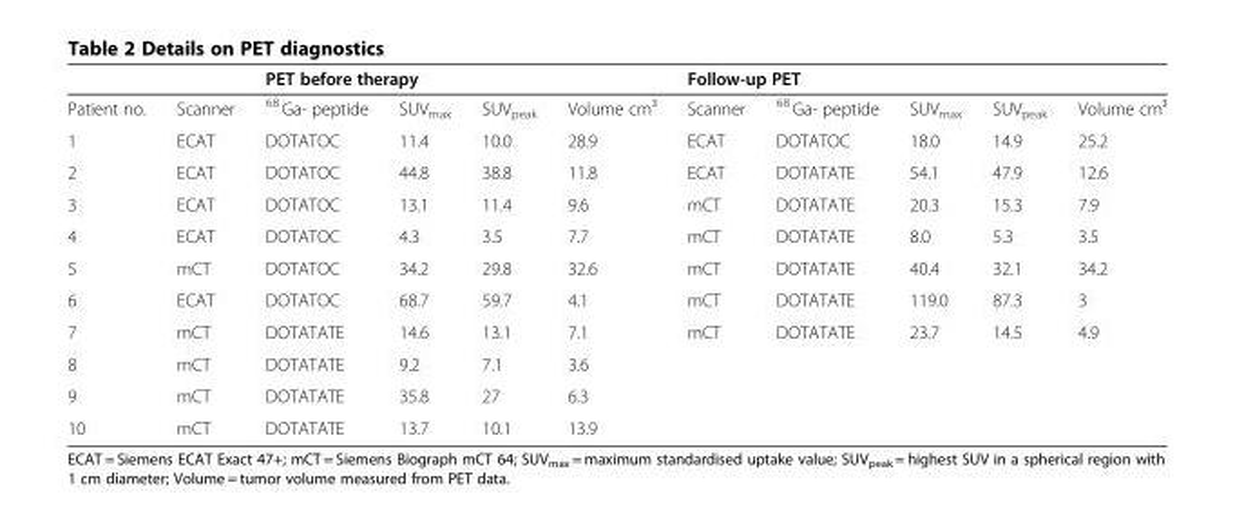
<table><thead><tr><td rowspan="2">Patient no.</td><td rowspan="2">Scanner</td><td colspan="4">PET before therapy</td><td colspan="5">Follow-up PET</td></tr><tr><td><sup>68</sup> Ga- peptide</td><td>SUV<sub>max</sub></td><td>SUV<sub>peak</sub></td><td>Volume cm³</td><td>Scanner</td><td><sup>68</sup> Ga- peptide</td><td>SUV<sub>max</sub></td><td>SUV<sub>peak</sub></td><td>Volume cm³</td></tr></thead><tbody><tr><td>1</td><td>ECAT</td><td>DOTATOC</td><td>11.4</td><td>10.0</td><td>28.9</td><td>ECAT</td><td>DOTATOC</td><td>18.0</td><td>14.9</td><td>25.2</td></tr><tr><td>2</td><td>ECAT</td><td>DOTATOC</td><td>44.8</td><td>38.8</td><td>11.8</td><td>ECAT</td><td>DOTATATE</td><td>54.1</td><td>47.9</td><td>12.6</td></tr><tr><td>3</td><td>ECAT</td><td>DOTATOC</td><td>13.1</td><td>11.4</td><td>9.6</td><td>mCT</td><td>DOTATATE</td><td>20.3</td><td>15.3</td><td>7.9</td></tr><tr><td>4</td><td>ECAT</td><td>DOTATOC</td><td>4.3</td><td>3.5</td><td>7.7</td><td>mCT</td><td>DOTATATE</td><td>8.0</td><td>5.3</td><td>3.5</td></tr><tr><td>5</td><td>mCT</td><td>DOTATOC</td><td>34.2</td><td>29.8</td><td>32.6</td><td>mCT</td><td>DOTATATE</td><td>40.4</td><td>32.1</td><td>34.2</td></tr><tr><td>6</td><td>ECAT</td><td>DOTATOC</td><td>68.7</td><td>59.7</td><td>4.1</td><td>mCT</td><td>DOTATATE</td><td>119.0</td><td>87.3</td><td>3</td></tr><tr><td>7</td><td>mCT</td><td>DOTATATE</td><td>14.6</td><td>13.1</td><td>7.1</td><td>mCT</td><td>DOTATATE</td><td>23.7</td><td>14.5</td><td>4.9</td></tr><tr><td>8</td><td>mCT</td><td>DOTATATE</td><td>9.2</td><td>7.1</td><td>3.6</td><td></td><td></td><td></td><td></td><td></td></tr><tr><td>9</td><td>mCT</td><td>DOTATATE</td><td>35.8</td><td>27</td><td>6.3</td><td></td><td></td><td></td><td></td><td></td></tr><tr><td>10</td><td>mCT</td><td>DOTATATE</td><td>13.7</td><td>10.1</td><td>13.9</td><td></td><td></td><td></td><td></td><td></td></tr></tbody></table>